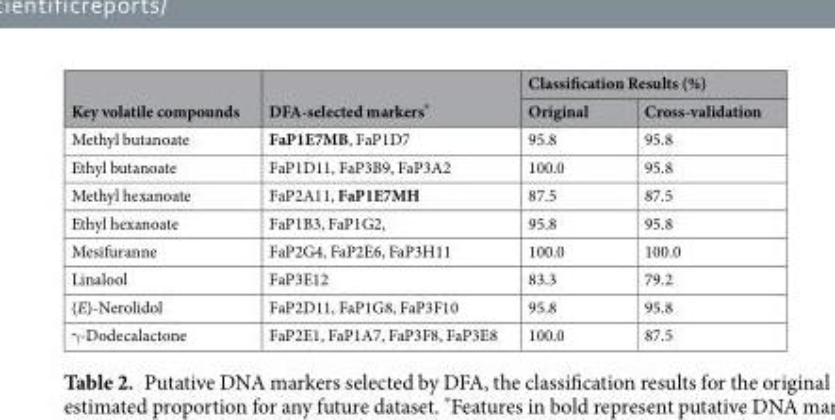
<table><thead><tr><td rowspan="2">Key volatile compounds</td><td rowspan="2">DFA-selected markers*</td><td colspan="2">Classification Results (%)</td></tr><tr><td>Original</td><td>Cross-validation</td></tr></thead><tbody><tr><td>Methyl butanoate</td><td>FaP1E7MB, FaP1D7</td><td>95.8</td><td>95.8</td></tr><tr><td>Ethyl butanoate</td><td>FaP1D11, FaP3B9, FaP3A2</td><td>100.0</td><td>95.8</td></tr><tr><td>Methyl hexanoate</td><td>FaP2A11, FaP1E7MH</td><td>87.5</td><td>87.5</td></tr><tr><td>Ethyl hexanoate</td><td>FaP1B3, FaP1G2,</td><td>95.8</td><td>95.8</td></tr><tr><td>Mesifuranne</td><td>FaP2G4, FaP2E6, FaP3H11</td><td>100.0</td><td>100.0</td></tr><tr><td>Linalool</td><td>FaP3E12</td><td>83.3</td><td>79.2</td></tr><tr><td>(E)-Nerolidol</td><td>FaP2D11, FaP1G8, FaP3F10</td><td>95.8</td><td>95.8</td></tr><tr><td>γ-Dodecalactone</td><td>FaP2E1, FaP1A7, FaP3F8, FaP3E8</td><td>100.0</td><td>87.5</td></tr></tbody></table>